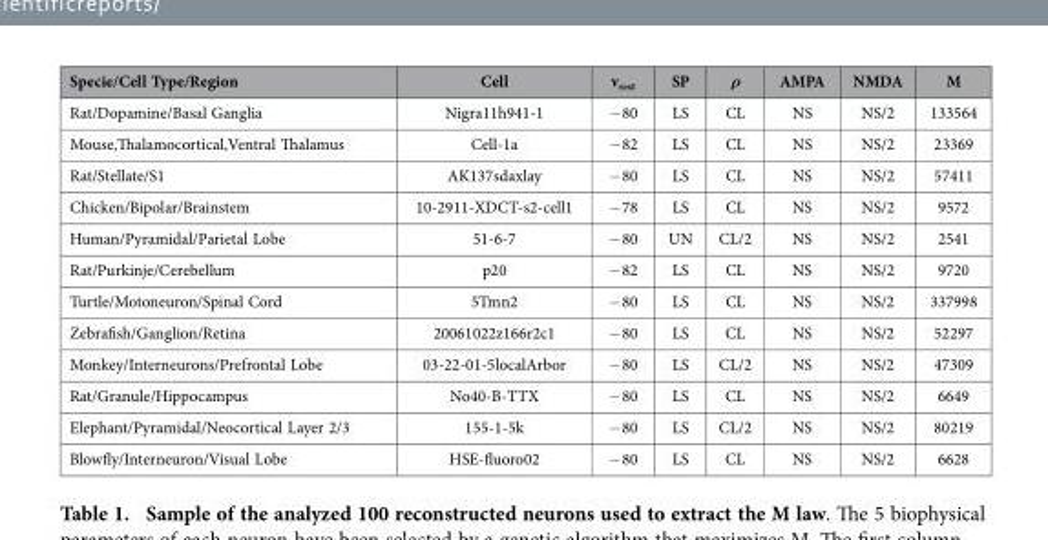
<table><thead><tr><td>Specie/Cell Type/Region</td><td>Cell</td><td>v<sub>rest</sub></td><td>SP</td><td>ρ</td><td>AMPA</td><td>NMDA</td><td>M</td></tr></thead><tbody><tr><td>Rat/Dopamine/Basal Ganglia</td><td>Nigra11h941-1</td><td>− 80</td><td>LS</td><td>CL</td><td>NS</td><td>NS/2</td><td>133564</td></tr><tr><td>Mouse,Thalamocortical,Ventral Thalamus</td><td>Cell-1a</td><td>− 82</td><td>LS</td><td>CL</td><td>NS</td><td>NS/2</td><td>23369</td></tr><tr><td>Rat/Stellate/S1</td><td>AK137sdaxlay</td><td>− 80</td><td>LS</td><td>CL</td><td>NS</td><td>NS/2</td><td>57411</td></tr><tr><td>Chicken/Bipolar/Brainstem</td><td>10-2911-XDCT-s2-cell1</td><td>− 78</td><td>LS</td><td>CL</td><td>NS</td><td>NS/2</td><td>9572</td></tr><tr><td>Human/Pyramidal/Parietal Lobe</td><td>51-6-7</td><td>− 80</td><td>UN</td><td>CL/2</td><td>NS</td><td>NS/2</td><td>2541</td></tr><tr><td>Rat/Purkinje/Cerebellum</td><td>p20</td><td>− 82</td><td>LS</td><td>CL</td><td>NS</td><td>NS/2</td><td>9720</td></tr><tr><td>Turtle/Motoneuron/Spinal Cord</td><td>5Tmn2</td><td>− 80</td><td>LS</td><td>CL</td><td>NS</td><td>NS/2</td><td>337998</td></tr><tr><td>Zebrafish/Ganglion/Retina</td><td>20061022z166r2c1</td><td>− 80</td><td>LS</td><td>CL</td><td>NS</td><td>NS/2</td><td>52297</td></tr><tr><td>Monkey/Interneurons/Prefrontal Lobe</td><td>03-22-01-5localArbor</td><td>− 80</td><td>LS</td><td>CL/2</td><td>NS</td><td>NS/2</td><td>47309</td></tr><tr><td>Rat/Granule/Hippocampus</td><td>No40-B-TTX</td><td>− 80</td><td>LS</td><td>CL</td><td>NS</td><td>NS/2</td><td>6649</td></tr><tr><td>Elephant/Pyramidal/Neocortical Layer 2/3</td><td>155-1-5k</td><td>− 80</td><td>LS</td><td>CL/2</td><td>NS</td><td>NS/2</td><td>80219</td></tr><tr><td>Blowfly/Interneuron/Visual Lobe</td><td>HSE-fluoro02</td><td>− 80</td><td>LS</td><td>CL</td><td>NS</td><td>NS/2</td><td>6628</td></tr></tbody></table>